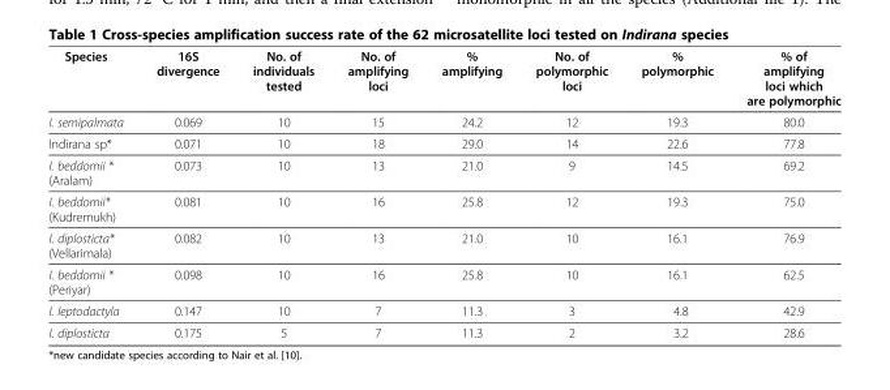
<table><thead><tr><td>Species</td><td>16S divergence</td><td>No. of individuals tested</td><td>No. of amplifying loci</td><td>% amplifying</td><td>No. of polymorphic loci</td><td>% polymorphic</td><td>% of amplifying loci which are polymorphic</td></tr></thead><tbody><tr><td>I. semipalmata</td><td>0.069</td><td>10</td><td>15</td><td>24.2</td><td>12</td><td>19.3</td><td>80.0</td></tr><tr><td>Indirana sp*</td><td>0.071</td><td>10</td><td>18</td><td>29.0</td><td>14</td><td>22.6</td><td>77.8</td></tr><tr><td>I. beddomii * (Aralam)</td><td>0.073</td><td>10</td><td>13</td><td>21.0</td><td>9</td><td>14.5</td><td>69.2</td></tr><tr><td>I. beddomii* (Kudremukh)</td><td>0.081</td><td>10</td><td>16</td><td>25.8</td><td>12</td><td>19.3</td><td>75.0</td></tr><tr><td>I. diplosticta* (Vellarimala)</td><td>0.082</td><td>10</td><td>13</td><td>21.0</td><td>10</td><td>16.1</td><td>76.9</td></tr><tr><td>I. beddomii * (Periyar)</td><td>0.098</td><td>10</td><td>16</td><td>25.8</td><td>10</td><td>16.1</td><td>62.5</td></tr><tr><td>I. leptodactyla</td><td>0.147</td><td>10</td><td>7</td><td>11.3</td><td>3</td><td>4.8</td><td>42.9</td></tr><tr><td>I. diplosticta</td><td>0.175</td><td>5</td><td>7</td><td>11.3</td><td>2</td><td>3.2</td><td>28.6</td></tr></tbody></table>